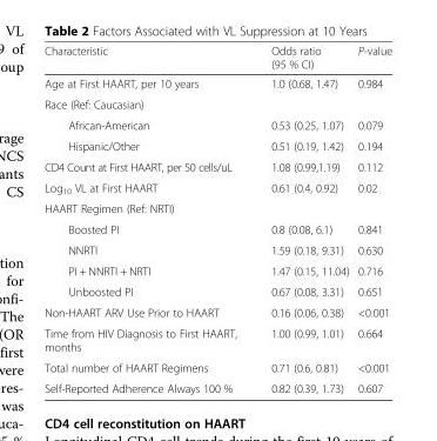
<table><thead><tr><td>Characteristic</td><td>Odds ratio (95 % CI)</td><td>P-value</td></tr></thead><tbody><tr><td>Age at First HAART, per 10 years</td><td>1.0 (0.68, 1.47)</td><td>0.984</td></tr><tr><td colspan="3">Race (Ref: Caucasian)</td></tr><tr><td>African-American</td><td>0.53 (0.25, 1.07)</td><td>0.079</td></tr><tr><td>Hispanic/Other</td><td>0.51 (0.19, 1.42)</td><td>0.194</td></tr><tr><td>CD4 Count at First HAART, per 50 cells/uL</td><td>1.08 (0.99,1.19)</td><td>0.112</td></tr><tr><td>Log<sub>10</sub> VL at First HAART</td><td>0.61 (0.4, 0.92)</td><td>0.02</td></tr><tr><td colspan="3">HAART Regimen (Ref: NRTI)</td></tr><tr><td>Boosted PI</td><td>0.8 (0.08, 6.1)</td><td>0.841</td></tr><tr><td>NNRTI</td><td>1.59 (0.18, 9.31)</td><td>0.630</td></tr><tr><td>PI + NNRTI + NRTI</td><td>1.47 (0.15, 11.04)</td><td>0.716</td></tr><tr><td>Unboosted PI</td><td>0.67 (0.08, 3.31)</td><td>0.651</td></tr><tr><td>Non-HAART ARV Use Prior to HAART</td><td>0.16 (0.06, 0.38)</td><td>&lt;0.001</td></tr><tr><td>Time from HIV Diagnosis to First HAART, months</td><td>1.00 (0.99, 1.01)</td><td>0.664</td></tr><tr><td>Total number of HAART Regimens</td><td>0.71 (0.6, 0.81)</td><td>&lt;0.001</td></tr><tr><td>Self-Reported Adherence Always 100 %</td><td>0.82 (0.39, 1.73)</td><td>0.607</td></tr></tbody></table>